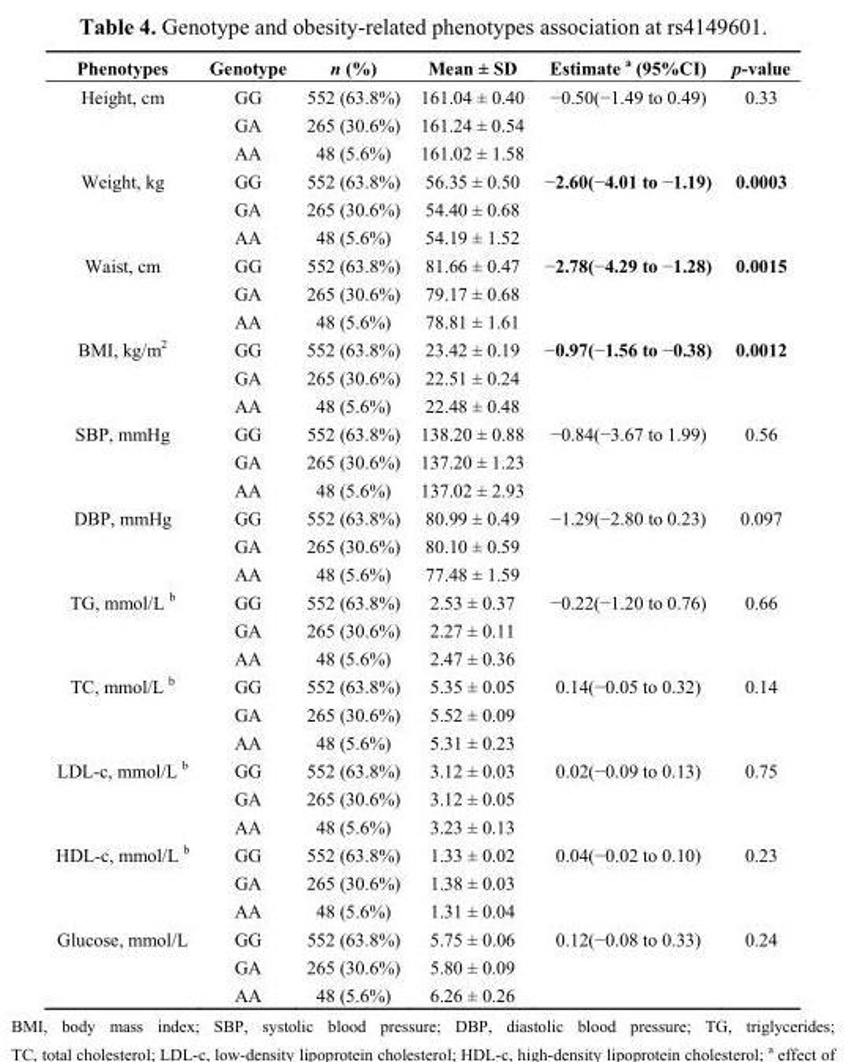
<table><thead><tr><td>Phenotypes</td><td>Genotype</td><td>n (%)</td><td>Mean ± SD</td><td>Estimate a (95%CI)</td><td>p-value</td></tr></thead><tbody><tr><td rowspan="3">Height, cm</td><td>GG</td><td>552 (63.8%)</td><td>161.04 ± 0.40</td><td>−0.50(−1.49 to 0.49)</td><td>0.33</td></tr><tr><td>GA</td><td>265 (30.6%)</td><td>161.24 ± 0.54</td><td></td><td></td></tr><tr><td>AA</td><td>48 (5.6%)</td><td>161.02 ± 1.58</td><td></td><td></td></tr><tr><td rowspan="3">Weight, kg</td><td>GG</td><td>552 (63.8%)</td><td>56.35 ± 0.50</td><td>−2.60(−4.01 to −1.19)</td><td>0.0003</td></tr><tr><td>GA</td><td>265 (30.6%)</td><td>54.40 ± 0.68</td><td></td><td></td></tr><tr><td>AA</td><td>48 (5.6%)</td><td>54.19 ± 1.52</td><td></td><td></td></tr><tr><td rowspan="3">Waist, cm</td><td>GG</td><td>552 (63.8%)</td><td>81.66 ± 0.47</td><td>−2.78(−4.29 to −1.28)</td><td>0.0015</td></tr><tr><td>GA</td><td>265 (30.6%)</td><td>79.17 ± 0.68</td><td></td><td></td></tr><tr><td>AA</td><td>48 (5.6%)</td><td>78.81 ± 1.61</td><td></td><td></td></tr><tr><td rowspan="3">BMI, kg/m<sup>2</sup></td><td>GG</td><td>552 (63.8%)</td><td>23.42 ± 0.19</td><td>−0.97(−1.56 to −0.38)</td><td>0.0012</td></tr><tr><td>GA</td><td>265 (30.6%)</td><td>22.51 ± 0.24</td><td></td><td></td></tr><tr><td>AA</td><td>48 (5.6%)</td><td>22.48 ± 0.48</td><td></td><td></td></tr><tr><td rowspan="3">SBP, mmHg</td><td>GG</td><td>552 (63.8%)</td><td>138.20 ± 0.88</td><td>−0.84(−3.67 to 1.99)</td><td>0.56</td></tr><tr><td>GA</td><td>265 (30.6%)</td><td>137.20 ± 1.23</td><td></td><td></td></tr><tr><td>AA</td><td>48 (5.6%)</td><td>137.02 ± 2.93</td><td></td><td></td></tr><tr><td rowspan="3">DBP, mmHg</td><td>GG</td><td>552 (63.8%)</td><td>80.99 ± 0.49</td><td>−1.29(−2.80 to 0.23)</td><td>0.097</td></tr><tr><td>GA</td><td>265 (30.6%)</td><td>80.10 ± 0.59</td><td></td><td></td></tr><tr><td>AA</td><td>48 (5.6%)</td><td>77.48 ± 1.59</td><td></td><td></td></tr><tr><td rowspan="3">TG, mmol/L b</td><td>GG</td><td>552 (63.8%)</td><td>2.53 ± 0.37</td><td>−0.22(−1.20 to 0.76)</td><td>0.66</td></tr><tr><td>GA</td><td>265 (30.6%)</td><td>2.27 ± 0.11</td><td></td><td></td></tr><tr><td>AA</td><td>48 (5.6%)</td><td>2.47 ± 0.36</td><td></td><td></td></tr><tr><td rowspan="3">TC, mmol/L b</td><td>GG</td><td>552 (63.8%)</td><td>5.35 ± 0.05</td><td>0.14(−0.05 to 0.32)</td><td>0.14</td></tr><tr><td>GA</td><td>265 (30.6%)</td><td>5.52 ± 0.09</td><td></td><td></td></tr><tr><td>AA</td><td>48 (5.6%)</td><td>5.31 ± 0.23</td><td></td><td></td></tr><tr><td rowspan="3">LDL-c, mmol/L b</td><td>GG</td><td>552 (63.8%)</td><td>3.12 ± 0.03</td><td>0.02(−0.09 to 0.13)</td><td>0.75</td></tr><tr><td>GA</td><td>265 (30.6%)</td><td>3.12 ± 0.05</td><td></td><td></td></tr><tr><td>AA</td><td>48 (5.6%)</td><td>3.23 ± 0.13</td><td></td><td></td></tr><tr><td rowspan="3">HDL-c, mmol/L b</td><td>GG</td><td>552 (63.8%)</td><td>1.33 ± 0.02</td><td>0.04(−0.02 to 0.10)</td><td>0.23</td></tr><tr><td>GA</td><td>265 (30.6%)</td><td>1.38 ± 0.03</td><td></td><td></td></tr><tr><td>AA</td><td>48 (5.6%)</td><td>1.31 ± 0.04</td><td></td><td></td></tr><tr><td rowspan="3">Glucose, mmol/L</td><td>GG</td><td>552 (63.8%)</td><td>5.75 ± 0.06</td><td>0.12(−0.08 to 0.33)</td><td>0.24</td></tr><tr><td>GA</td><td>265 (30.6%)</td><td>5.80 ± 0.09</td><td></td><td></td></tr><tr><td>AA</td><td>48 (5.6%)</td><td>6.26 ± 0.26</td><td></td><td></td></tr></tbody></table>